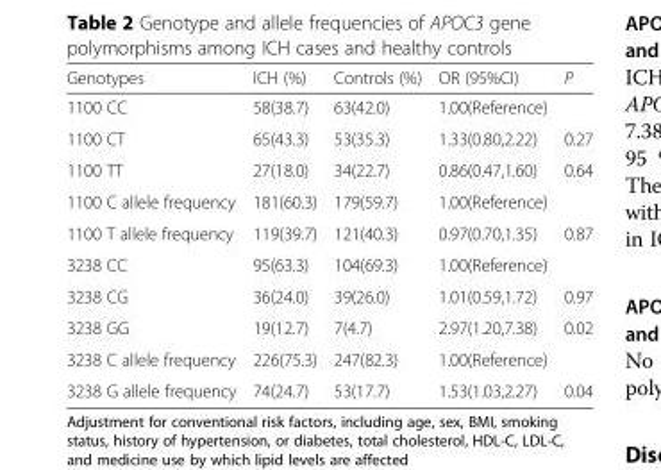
<table><thead><tr><td>Genotypes</td><td>ICH (%)</td><td>Controls (%)</td><td>OR (95%CI)</td><td>P</td></tr></thead><tbody><tr><td>1100 CC</td><td>58(38.7)</td><td>63(42.0)</td><td>1.00(Reference)</td><td></td></tr><tr><td>1100 CT</td><td>65(43.3)</td><td>53(35.3)</td><td>1.33(0.80,2.22)</td><td>0.27</td></tr><tr><td>1100 TT</td><td>27(18.0)</td><td>34(22.7)</td><td>0.86(0.47,1.60)</td><td>0.64</td></tr><tr><td>1100 C allele frequency</td><td>181(60.3)</td><td>179(59.7)</td><td>1.00(Reference)</td><td></td></tr><tr><td>1100 T allele frequency</td><td>119(39.7)</td><td>121(40.3)</td><td>0.97(0.70,1.35)</td><td>0.87</td></tr><tr><td>3238 CC</td><td>95(63.3)</td><td>104(69.3)</td><td>1.00(Reference)</td><td></td></tr><tr><td>3238 CG</td><td>36(24.0)</td><td>39(26.0)</td><td>1.01(0.59,1.72)</td><td>0.97</td></tr><tr><td>3238 GG</td><td>19(12.7)</td><td>7(4.7)</td><td>2.97(1.20,7.38)</td><td>0.02</td></tr><tr><td>3238 C allele frequency</td><td>226(75.3)</td><td>247(82.3)</td><td>1.00(Reference)</td><td></td></tr><tr><td>3238 G allele frequency</td><td>74(24.7)</td><td>53(17.7)</td><td>1.53(1.03,2.27)</td><td>0.04</td></tr></tbody></table>